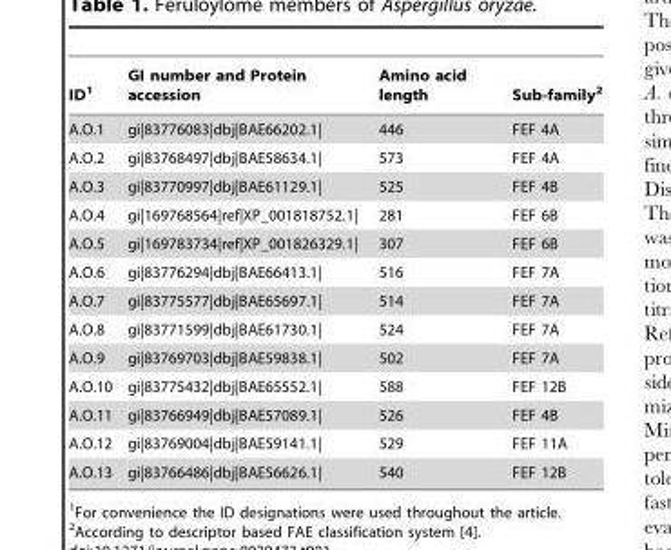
<table><thead><tr><td>ID<sup>1</sup></td><td>GI number and Protein accession</td><td>Amino acid length</td><td>Sub-family<sup>2</sup></td></tr></thead><tbody><tr><td>A.O.1</td><td>gi|83776083|dbj|BAE66202.1|</td><td>446</td><td>FEF 4A</td></tr><tr><td>A.O.2</td><td>gi|83768497|dbj|BAE58634.1|</td><td>573</td><td>FEF 4A</td></tr><tr><td>A.O.3</td><td>gi|83770997|dbj|BAE61129.1|</td><td>525</td><td>FEF 4B</td></tr><tr><td>A.O.4</td><td>gi|169768564|ref|XP_001818752.1|</td><td>281</td><td>FEF 6B</td></tr><tr><td>A.O.5</td><td>gi|169783734|ref|XP_001826329.1|</td><td>307</td><td>FEF 6B</td></tr><tr><td>A.O.6</td><td>gi|83776294|dbj|BAE66413.1|</td><td>516</td><td>FEF 7A</td></tr><tr><td>A.O.7</td><td>gi|83775577|dbj|BAE65697.1|</td><td>514</td><td>FEF 7A</td></tr><tr><td>A.O.8</td><td>gi|83771599|dbj|BAE61730.1|</td><td>524</td><td>FEF 7A</td></tr><tr><td>A.O.9</td><td>gi|83769703|dbj|BAE59838.1|</td><td>502</td><td>FEF 7A</td></tr><tr><td>A.O.10</td><td>gi|83775432|dbj|BAE65552.1|</td><td>588</td><td>FEF 12B</td></tr><tr><td>A.O.11</td><td>gi|83766949|dbj|BAE57089.1|</td><td>526</td><td>FEF 4B</td></tr><tr><td>A.O.12</td><td>gi|83769004|dbj|BAE59141.1|</td><td>529</td><td>FEF 11A</td></tr><tr><td>A.O.13</td><td>gi|83766486|dbj|BAE56626.1|</td><td>540</td><td>FEF 12B</td></tr></tbody></table>